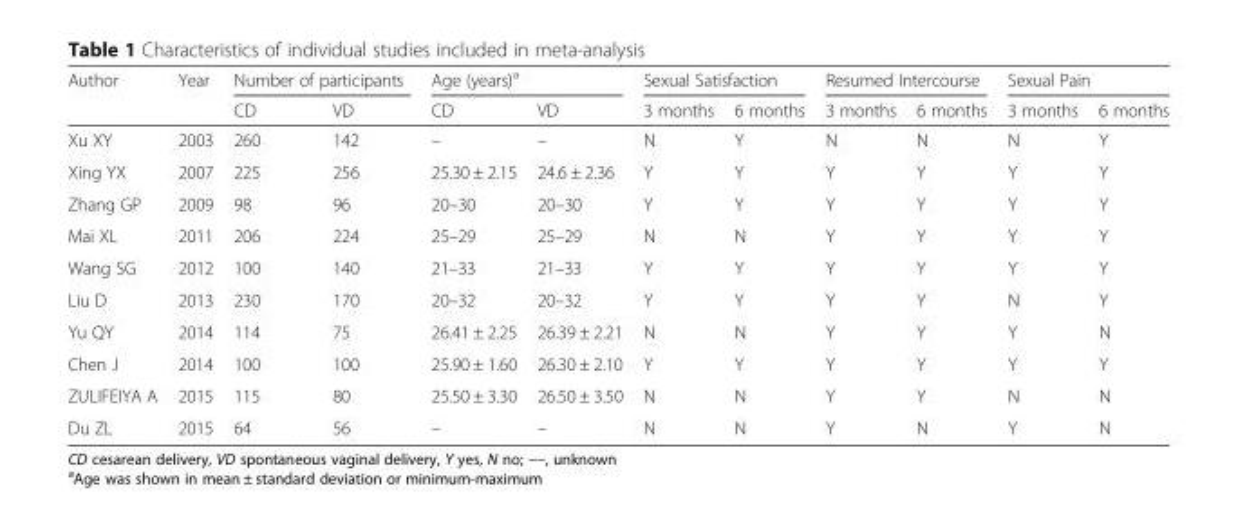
<table><thead><tr><td rowspan="2">Author</td><td rowspan="2">Year</td><td colspan="2">Number of participants</td><td colspan="2">Age (years)<sup>a</sup></td><td colspan="2">Sexual Satisfaction</td><td colspan="2">Resumed Intercourse</td><td colspan="2">Sexual Pain</td></tr><tr><td>CD</td><td>VD</td><td>CD</td><td>VD</td><td>3 months</td><td>6 months</td><td>3 months</td><td>6 months</td><td>3 months</td><td>6 months</td></tr></thead><tbody><tr><td>Xu XY</td><td>2003</td><td>260</td><td>142</td><td>–</td><td>–</td><td>N</td><td>Y</td><td>N</td><td>N</td><td>N</td><td>Y</td></tr><tr><td>Xing YX</td><td>2007</td><td>225</td><td>256</td><td>25.30 ± 2.15</td><td>24.6 ± 2.36</td><td>Y</td><td>Y</td><td>Y</td><td>Y</td><td>Y</td><td>Y</td></tr><tr><td>Zhang GP</td><td>2009</td><td>98</td><td>96</td><td>20–30</td><td>20–30</td><td>Y</td><td>Y</td><td>Y</td><td>Y</td><td>Y</td><td>Y</td></tr><tr><td>Mai XL</td><td>2011</td><td>206</td><td>224</td><td>25–29</td><td>25–29</td><td>N</td><td>N</td><td>Y</td><td>Y</td><td>Y</td><td>Y</td></tr><tr><td>Wang SG</td><td>2012</td><td>100</td><td>140</td><td>21–33</td><td>21–33</td><td>Y</td><td>Y</td><td>Y</td><td>Y</td><td>Y</td><td>Y</td></tr><tr><td>Liu D</td><td>2013</td><td>230</td><td>170</td><td>20–32</td><td>20–32</td><td>Y</td><td>Y</td><td>Y</td><td>Y</td><td>N</td><td>Y</td></tr><tr><td>Yu QY</td><td>2014</td><td>114</td><td>75</td><td>26.41 ± 2.25</td><td>26.39 ± 2.21</td><td>N</td><td>N</td><td>Y</td><td>Y</td><td>Y</td><td>N</td></tr><tr><td>Chen J</td><td>2014</td><td>100</td><td>100</td><td>25.90 ± 1.60</td><td>26.30 ± 2.10</td><td>Y</td><td>Y</td><td>Y</td><td>Y</td><td>Y</td><td>Y</td></tr><tr><td>ZULIFEIYA A</td><td>2015</td><td>115</td><td>80</td><td>25.50 ± 3.30</td><td>26.50 ± 3.50</td><td>N</td><td>N</td><td>Y</td><td>Y</td><td>N</td><td>N</td></tr><tr><td>Du ZL</td><td>2015</td><td>64</td><td>56</td><td>–</td><td>–</td><td>N</td><td>N</td><td>Y</td><td>N</td><td>Y</td><td>N</td></tr></tbody></table>